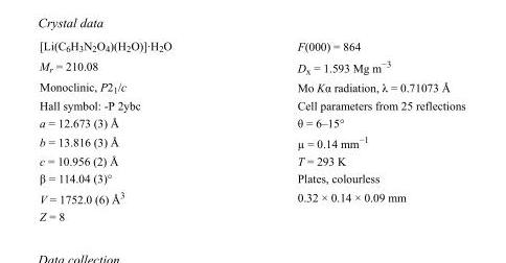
<table><tbody><tr><td>[Li(C<sub>6</sub>H<sub>3</sub>N<sub>2</sub>O<sub>4</sub>)(H<sub>2</sub>O)]·H<sub>2</sub>O</td><td>F(000) = 864</td></tr><tr><td>M<sub>r</sub> = 210.08</td><td>D<sub>x</sub> = 1.593 Mg m<sup>−3</sup></td></tr><tr><td>Monoclinic, P2<sub>1</sub>/c</td><td>Mo Kα radiation, λ = 0.71073 Å</td></tr><tr><td>Hall symbol: -P 2ybc</td><td>Cell parameters from 25 reflections</td></tr><tr><td>a = 12.673 (3) Å</td><td>θ = 6–15°</td></tr><tr><td>b = 13.816 (3) Å</td><td>µ = 0.14 mm<sup>−1</sup></td></tr><tr><td>c = 10.956 (2) Å</td><td>T = 293 K</td></tr><tr><td>β = 114.04 (3)°</td><td>Plates, colourless</td></tr><tr><td>V = 1752.0 (6) Å<sup>3</sup></td><td>0.32 × 0.14 × 0.09 mm</td></tr><tr><td>Z = 8</td><td></td></tr></tbody></table>